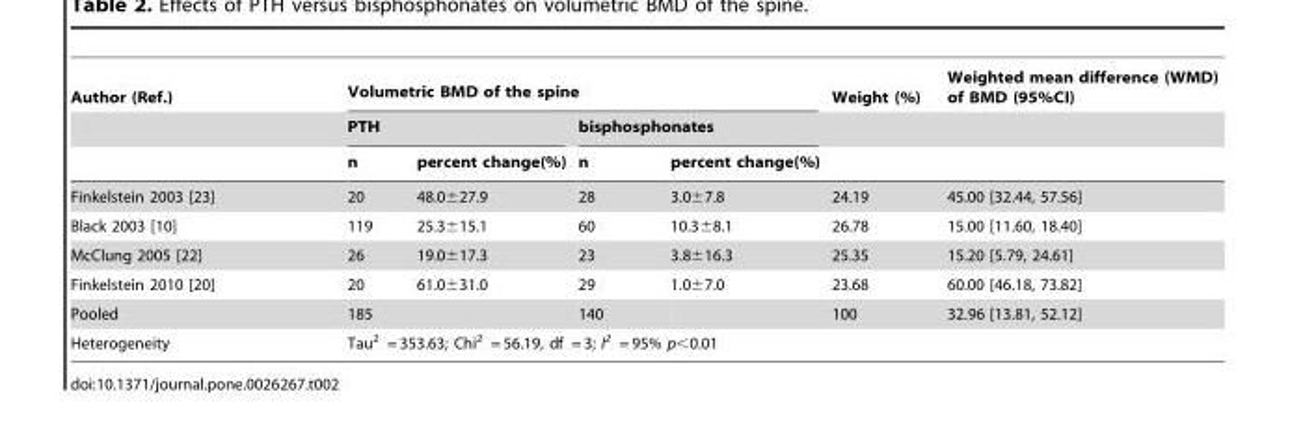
<table><thead><tr><td rowspan="3">Author (Ref.)</td><td colspan="4">Volumetric BMD of the spine</td><td rowspan="3">Weight (%)</td><td rowspan="3">Weighted mean difference (WMD) of BMD (95%CI)</td></tr><tr><td colspan="2">PTH</td><td colspan="2">bisphosphonates</td></tr><tr><td>n</td><td>percent change(%)</td><td>n</td><td>percent change(%)</td></tr></thead><tbody><tr><td>Finkelstein 2003 [23]</td><td>20</td><td>48.0±27.9</td><td>28</td><td>3.0±7.8</td><td>24.19</td><td>45.00 [32.44, 57.56]</td></tr><tr><td>Black 2003 [10]</td><td>119</td><td>25.3±15.1</td><td>60</td><td>10.3±8.1</td><td>26.78</td><td>15.00 [11.60, 18.40]</td></tr><tr><td>McClung 2005 [22]</td><td>26</td><td>19.0±17.3</td><td>23</td><td>3.8±16.3</td><td>25.35</td><td>15.20 [5.79, 24.61]</td></tr><tr><td>Finkelstein 2010 [20]</td><td>20</td><td>61.0±31.0</td><td>29</td><td>1.0±7.0</td><td>23.68</td><td>60.00 [46.18, 73.82]</td></tr><tr><td>Pooled</td><td>185</td><td></td><td>140</td><td></td><td>100</td><td>32.96 [13.81, 52.12]</td></tr><tr><td>Heterogeneity</td><td colspan="6">Tau<sup>2</sup> = 353.63; Chi<sup>2</sup> = 56.19, df = 3; I<sup>2</sup> = 95% p&lt;0.01</td></tr></tbody></table>